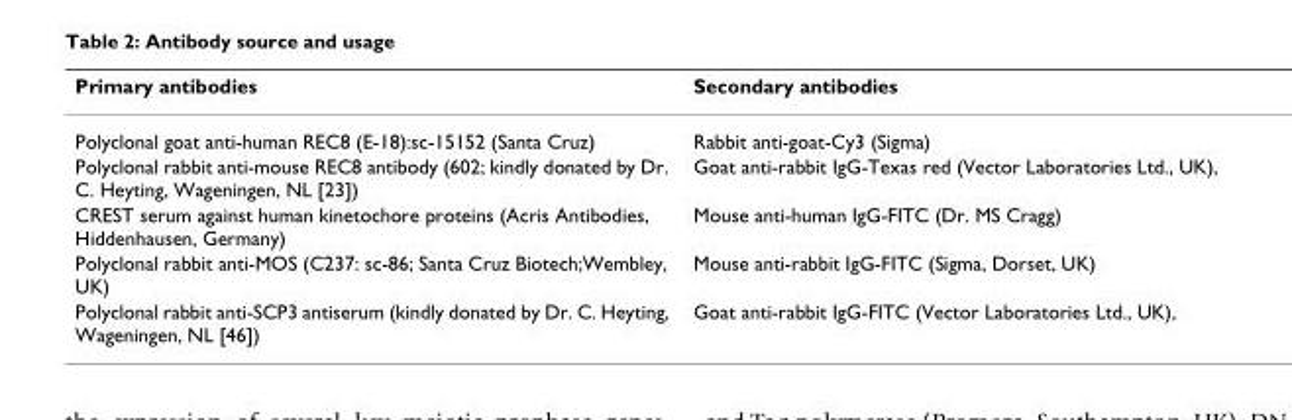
<table><thead><tr><td>Primary antibodies</td><td>Secondary antibodies</td></tr></thead><tbody><tr><td>Polyclonal goat anti-human REC8 (E-18):sc-15152 (Santa Cruz)</td><td>Rabbit anti-goat-Cy3 (Sigma)</td></tr><tr><td>Polyclonal rabbit anti-mouse REC8 antibody (602; kindly donated by Dr. C. Heyting, Wageningen, NL [23])</td><td>Goat anti-rabbit IgG-Texas red (Vector Laboratories Ltd., UK),</td></tr><tr><td>CREST serum against human kinetochore proteins (Acris Antibodies, Hiddenhausen, Germany)</td><td>Mouse anti-human IgG-FITC (Dr. MS Cragg)</td></tr><tr><td>Polyclonal rabbit anti-MOS (C237: sc-86; Santa Cruz Biotech;Wembley, UK)</td><td>Mouse anti-rabbit IgG-FITC (Sigma, Dorset, UK)</td></tr><tr><td>Polyclonal rabbit anti-SCP3 antiserum (kindly donated by Dr. C. Heyting, Wageningen, NL [46])</td><td>Goat anti-rabbit IgG-FITC (Vector Laboratories Ltd., UK),</td></tr></tbody></table>